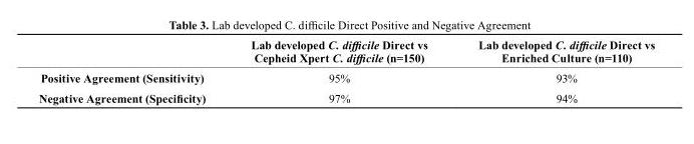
<table><thead><tr><td></td><td>Lab developed C. difficile Direct vs cepheid Xpert C. difficile (n=150)</td><td>Lab developed C. difficile Direct vs Enriched culture (n=110)</td></tr></thead><tbody><tr><td>Positive Agreement (sensitivity)</td><td>95%</td><td>93%</td></tr><tr><td>Negative Agreement (Specificity)</td><td>97%</td><td>94%</td></tr></tbody></table>